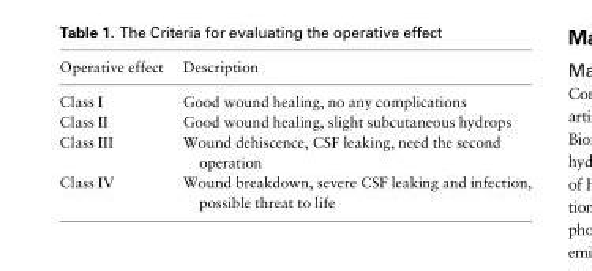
<table><thead><tr><td>Operative effect</td><td>Description</td></tr></thead><tbody><tr><td>Class I</td><td>Good wound healing, no any complications</td></tr><tr><td>Class II</td><td>Good wound healing, slight subcutaneous hydrops</td></tr><tr><td>Class III</td><td>Wound dehiscence, CSF leaking, need the second operation</td></tr><tr><td>Class IV</td><td>Wound breakdown, severe CSF leaking and infection, possible threat to life</td></tr></tbody></table>